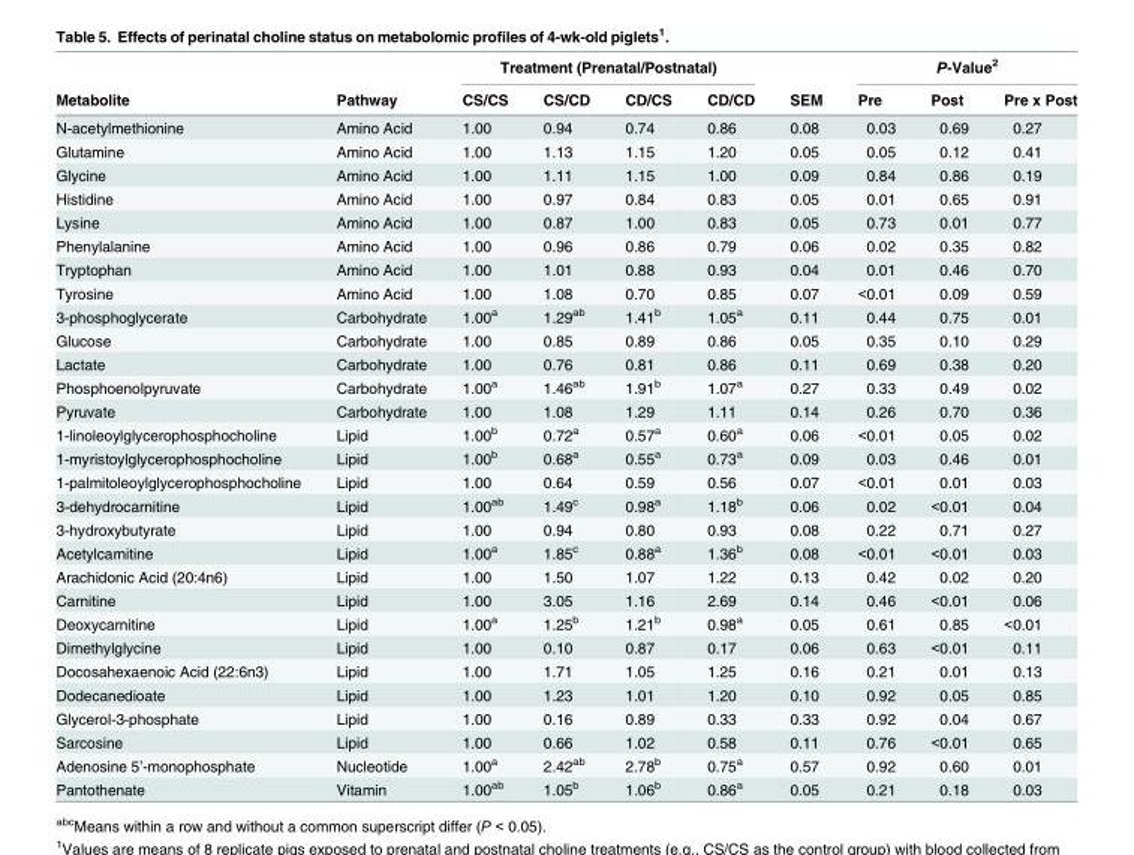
<table><thead><tr><td rowspan="2">Metabolite</td><td rowspan="2">Pathway</td><td colspan="4">Treatment (Prenatal/Postnatal)</td><td rowspan="2">SEM</td><td colspan="3">P-Value<sup>2</sup></td></tr><tr><td>CS/CS</td><td>CS/CD</td><td>CD/CS</td><td>CD/CD</td><td>Pre</td><td>Post</td><td>Pre x Post</td></tr></thead><tbody><tr><td>N-acetylmethionine</td><td>Amino Acid</td><td>1.00</td><td>0.94</td><td>0.74</td><td>0.86</td><td>0.08</td><td>0.03</td><td>0.69</td><td>0.27</td></tr><tr><td>Glutamine</td><td>Amino Acid</td><td>1.00</td><td>1.13</td><td>1.15</td><td>1.20</td><td>0.05</td><td>0.05</td><td>0.12</td><td>0.41</td></tr><tr><td>Glycine</td><td>Amino Acid</td><td>1.00</td><td>1.11</td><td>1.15</td><td>1.00</td><td>0.09</td><td>0.84</td><td>0.86</td><td>0.19</td></tr><tr><td>Histidine</td><td>Amino Acid</td><td>1.00</td><td>0.97</td><td>0.84</td><td>0.83</td><td>0.05</td><td>0.01</td><td>0.65</td><td>0.91</td></tr><tr><td>Lysine</td><td>Amino Acid</td><td>1.00</td><td>0.87</td><td>1.00</td><td>0.83</td><td>0.05</td><td>0.73</td><td>0.01</td><td>0.77</td></tr><tr><td>Phenylalanine</td><td>Amino Acid</td><td>1.00</td><td>0.96</td><td>0.86</td><td>0.79</td><td>0.06</td><td>0.02</td><td>0.35</td><td>0.82</td></tr><tr><td>Tryptophan</td><td>Amino Acid</td><td>1.00</td><td>1.01</td><td>0.88</td><td>0.93</td><td>0.04</td><td>0.01</td><td>0.46</td><td>0.70</td></tr><tr><td>Tyrosine</td><td>Amino Acid</td><td>1.00</td><td>1.08</td><td>0.70</td><td>0.85</td><td>0.07</td><td>&lt;0.01</td><td>0.09</td><td>0.59</td></tr><tr><td>3-phosphoglycerate</td><td>Carbohydrate</td><td>1.00<sup>a</sup></td><td>1.29<sup>ab</sup></td><td>1.41<sup>b</sup></td><td>1.05<sup>a</sup></td><td>0.11</td><td>0.44</td><td>0.75</td><td>0.01</td></tr><tr><td>Glucose</td><td>Carbohydrate</td><td>1.00</td><td>0.85</td><td>0.89</td><td>0.86</td><td>0.05</td><td>0.35</td><td>0.10</td><td>0.29</td></tr><tr><td>Lactate</td><td>Carbohydrate</td><td>1.00</td><td>0.76</td><td>0.81</td><td>0.86</td><td>0.11</td><td>0.69</td><td>0.38</td><td>0.20</td></tr><tr><td>Phosphoenolpyruvate</td><td>Carbohydrate</td><td>1.00<sup>a</sup></td><td>1.46<sup>ab</sup></td><td>1.91<sup>b</sup></td><td>1.07<sup>a</sup></td><td>0.27</td><td>0.33</td><td>0.49</td><td>0.02</td></tr><tr><td>Pyruvate</td><td>Carbohydrate</td><td>1.00</td><td>1.08</td><td>1.29</td><td>1.11</td><td>0.14</td><td>0.26</td><td>0.70</td><td>0.36</td></tr><tr><td>1-linoleoylglycerophosphocholine</td><td>Lipid</td><td>1.00<sup>b</sup></td><td>0.72<sup>a</sup></td><td>0.57<sup>a</sup></td><td>0.60<sup>a</sup></td><td>0.06</td><td>&lt;0.01</td><td>0.05</td><td>0.02</td></tr><tr><td>1-myristoylglycerophosphocholine</td><td>Lipid</td><td>1.00<sup>b</sup></td><td>0.68<sup>a</sup></td><td>0.55<sup>a</sup></td><td>0.73<sup>a</sup></td><td>0.09</td><td>0.03</td><td>0.46</td><td>0.01</td></tr><tr><td>1-palmitoleoylglycerophosphocholine</td><td>Lipid</td><td>1.00</td><td>0.64</td><td>0.59</td><td>0.56</td><td>0.07</td><td>&lt;0.01</td><td>0.01</td><td>0.03</td></tr><tr><td>3-dehydrocarnitine</td><td>Lipid</td><td>1.00<sup>ab</sup></td><td>1.49<sup>c</sup></td><td>0.98<sup>a</sup></td><td>1.18<sup>b</sup></td><td>0.06</td><td>0.02</td><td>&lt;0.01</td><td>0.04</td></tr><tr><td>3-hydroxybutyrate</td><td>Lipid</td><td>1.00</td><td>0.94</td><td>0.80</td><td>0.93</td><td>0.08</td><td>0.22</td><td>0.71</td><td>0.27</td></tr><tr><td>Acetylcarnitine</td><td>Lipid</td><td>1.00<sup>a</sup></td><td>1.85<sup>c</sup></td><td>0.88<sup>a</sup></td><td>1.36<sup>b</sup></td><td>0.08</td><td>&lt;0.01</td><td>&lt;0.01</td><td>0.03</td></tr><tr><td>Arachidonic Acid (20:4n6)</td><td>Lipid</td><td>1.00</td><td>1.50</td><td>1.07</td><td>1.22</td><td>0.13</td><td>0.42</td><td>0.02</td><td>0.20</td></tr><tr><td>Carnitine</td><td>Lipid</td><td>1.00</td><td>3.05</td><td>1.16</td><td>2.69</td><td>0.14</td><td>0.46</td><td>&lt;0.01</td><td>0.06</td></tr><tr><td>Deoxycarnitine</td><td>Lipid</td><td>1.00<sup>a</sup></td><td>1.25<sup>b</sup></td><td>1.21<sup>b</sup></td><td>0.98<sup>a</sup></td><td>0.05</td><td>0.61</td><td>0.85</td><td>&lt;0.01</td></tr><tr><td>Dimethylglycine</td><td>Lipid</td><td>1.00</td><td>0.10</td><td>0.87</td><td>0.17</td><td>0.06</td><td>0.63</td><td>&lt;0.01</td><td>0.11</td></tr><tr><td>Docosahexaenoic Acid (22:6n3)</td><td>Lipid</td><td>1.00</td><td>1.71</td><td>1.05</td><td>1.25</td><td>0.16</td><td>0.21</td><td>0.01</td><td>0.13</td></tr><tr><td>Dodecanedioate</td><td>Lipid</td><td>1.00</td><td>1.23</td><td>1.01</td><td>1.20</td><td>0.10</td><td>0.92</td><td>0.05</td><td>0.85</td></tr><tr><td>Glycerol-3-phosphate</td><td>Lipid</td><td>1.00</td><td>0.16</td><td>0.89</td><td>0.33</td><td>0.33</td><td>0.92</td><td>0.04</td><td>0.67</td></tr><tr><td>Sarcosine</td><td>Lipid</td><td>1.00</td><td>0.66</td><td>1.02</td><td>0.58</td><td>0.11</td><td>0.76</td><td>&lt;0.01</td><td>0.65</td></tr><tr><td>Adenosine 5’-monophosphate</td><td>Nucleotide</td><td>1.00<sup>a</sup></td><td>2.42<sup>ab</sup></td><td>2.78<sup>b</sup></td><td>0.75<sup>a</sup></td><td>0.57</td><td>0.92</td><td>0.60</td><td>0.01</td></tr><tr><td>Pantothenate</td><td>Vitamin</td><td>1.00<sup>ab</sup></td><td>1.05<sup>b</sup></td><td>1.06<sup>b</sup></td><td>0.86<sup>a</sup></td><td>0.05</td><td>0.21</td><td>0.18</td><td>0.03</td></tr></tbody></table>